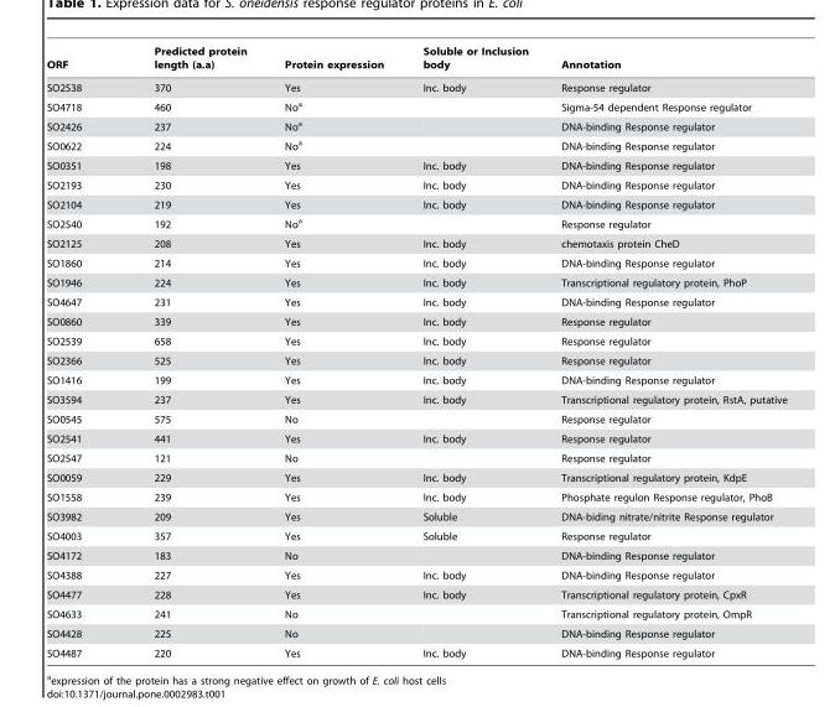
<table><thead><tr><td>ORF</td><td>Predicted protein length (a.a)</td><td>Protein expression</td><td>Soluble or Inclusion body</td><td>Annotation</td></tr></thead><tbody><tr><td>SO2538</td><td>370</td><td>Yes</td><td>Inc. body</td><td>Response regulator</td></tr><tr><td>SO4718</td><td>460</td><td>No<sup>a</sup></td><td></td><td>Sigma-54 dependent Response regulator</td></tr><tr><td>SO2426</td><td>237</td><td>No<sup>a</sup></td><td></td><td>DNA-binding Response regulator</td></tr><tr><td>SO0622</td><td>224</td><td>No<sup>a</sup></td><td></td><td>DNA-binding Response regulator</td></tr><tr><td>SO0351</td><td>198</td><td>Yes</td><td>Inc. body</td><td>DNA-binding Response regulator</td></tr><tr><td>SO2193</td><td>230</td><td>Yes</td><td>Inc. body</td><td>DNA-binding Response regulator</td></tr><tr><td>SO2104</td><td>219</td><td>Yes</td><td>Inc. body</td><td>DNA-binding Response regulator</td></tr><tr><td>SO2540</td><td>192</td><td>No<sup>a</sup></td><td></td><td>Response regulator</td></tr><tr><td>SO2125</td><td>208</td><td>Yes</td><td>Inc. body</td><td>chemotaxis protein CheD</td></tr><tr><td>SO1860</td><td>214</td><td>Yes</td><td>Inc. body</td><td>DNA-binding Response regulator</td></tr><tr><td>SO1946</td><td>224</td><td>Yes</td><td>Inc. body</td><td>Transcriptional regulatory protein, PhoP</td></tr><tr><td>SO4647</td><td>231</td><td>Yes</td><td>Inc. body</td><td>DNA-binding Response regulator</td></tr><tr><td>SO0860</td><td>339</td><td>Yes</td><td>Inc. body</td><td>Response regulator</td></tr><tr><td>SO2539</td><td>658</td><td>Yes</td><td>Inc. body</td><td>Response regulator</td></tr><tr><td>SO2366</td><td>525</td><td>Yes</td><td>Inc. body</td><td>Response regulator</td></tr><tr><td>SO1416</td><td>199</td><td>Yes</td><td>Inc. body</td><td>DNA-binding Response regulator</td></tr><tr><td>SO3594</td><td>237</td><td>Yes</td><td>Inc. body</td><td>Transcriptional regulatory protein, RstA, putative</td></tr><tr><td>SO0545</td><td>575</td><td>No</td><td></td><td>Response regulator</td></tr><tr><td>SO2541</td><td>441</td><td>Yes</td><td>Inc. body</td><td>Response regulator</td></tr><tr><td>SO2547</td><td>121</td><td>No</td><td></td><td>Response regulator</td></tr><tr><td>SO0059</td><td>229</td><td>Yes</td><td>Inc. body</td><td>Transcriptional regulatory protein, KdpE</td></tr><tr><td>SO1558</td><td>239</td><td>Yes</td><td>Inc. body</td><td>Phosphate regulon Response regulator, PhoB</td></tr><tr><td>SO3982</td><td>209</td><td>Yes</td><td>Soluble</td><td>DNA-biding nitrate/nitrite Response regulator</td></tr><tr><td>SO4003</td><td>357</td><td>Yes</td><td>Soluble</td><td>Response regulator</td></tr><tr><td>SO4172</td><td>183</td><td>No</td><td></td><td>DNA-binding Response regulator</td></tr><tr><td>SO4388</td><td>227</td><td>Yes</td><td>Inc. body</td><td>DNA-binding Response regulator</td></tr><tr><td>SO4477</td><td>228</td><td>Yes</td><td>Inc. body</td><td>Transcriptional regulatory protein, CpxR</td></tr><tr><td>SO4633</td><td>241</td><td>No</td><td></td><td>Transcriptional regulatory protein, OmpR</td></tr><tr><td>SO4428</td><td>225</td><td>No</td><td></td><td>DNA-binding Response regulator</td></tr><tr><td>SO4487</td><td>220</td><td>Yes</td><td>Inc. body</td><td>DNA-binding Response regulator</td></tr></tbody></table>